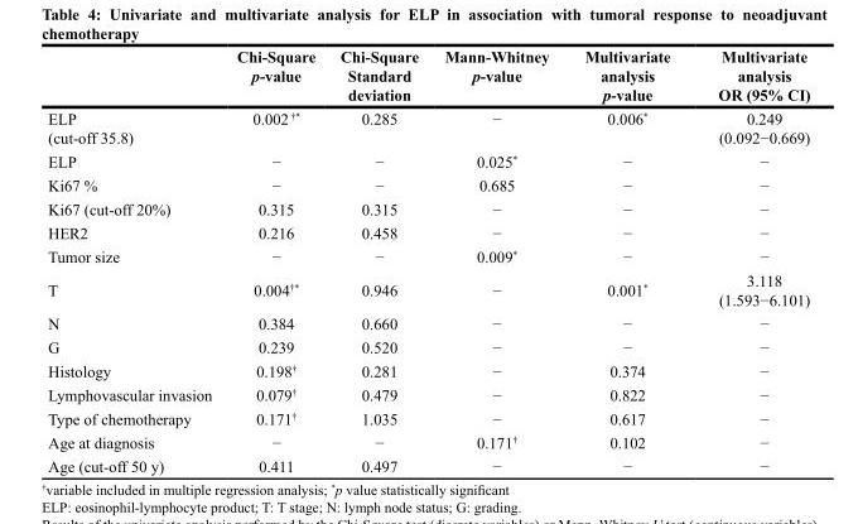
<table><thead><tr><td></td><td>Chi-Square p-value</td><td>Chi-Square Standard deviation</td><td>Mann-Whitney p-value</td><td>Multivariate analysis p-value</td><td>Multivariate analysis OR (95% CI)</td></tr></thead><tbody><tr><td>ELP (cut-off 35.8)</td><td>0.002 <sup>†*</sup></td><td>0.285</td><td>−</td><td>0.006*</td><td>0.249 (0.092−0.669)</td></tr><tr><td>ELP</td><td>−</td><td>−</td><td>0.025*</td><td>−</td><td>−</td></tr><tr><td>Ki67 %</td><td>−</td><td>−</td><td>0.685</td><td>−</td><td>−</td></tr><tr><td>Ki67 (cut-off 20%)</td><td>0.315</td><td>0.315</td><td>−</td><td>−</td><td>−</td></tr><tr><td>HER2</td><td>0.216</td><td>0.458</td><td>−</td><td>−</td><td>−</td></tr><tr><td>Tumor size</td><td>−</td><td>−</td><td>0.009*</td><td>−</td><td>−</td></tr><tr><td>T</td><td>0.004<sup>†*</sup></td><td>0.946</td><td>−</td><td>0.001*</td><td>3.118 (1.593−6.101)</td></tr><tr><td>N</td><td>0.384</td><td>0.660</td><td>−</td><td>−</td><td>−</td></tr><tr><td>G</td><td>0.239</td><td>0.520</td><td>−</td><td>−</td><td>−</td></tr><tr><td>Histology</td><td>0.198<sup>†</sup></td><td>0.281</td><td>−</td><td>0.374</td><td>−</td></tr><tr><td>Lymphovascular invasion</td><td>0.079<sup>†</sup></td><td>0.479</td><td>−</td><td>0.822</td><td>−</td></tr><tr><td>Type of chemotherapy</td><td>0.171<sup>†</sup></td><td>1.035</td><td>−</td><td>0.617</td><td>−</td></tr><tr><td>Age at diagnosis</td><td>−</td><td>−</td><td>0.171<sup>†</sup></td><td>0.102</td><td>−</td></tr><tr><td>Age (cut-off 50 y)</td><td>0.411</td><td>0.497</td><td>−</td><td>−</td><td>−</td></tr></tbody></table>